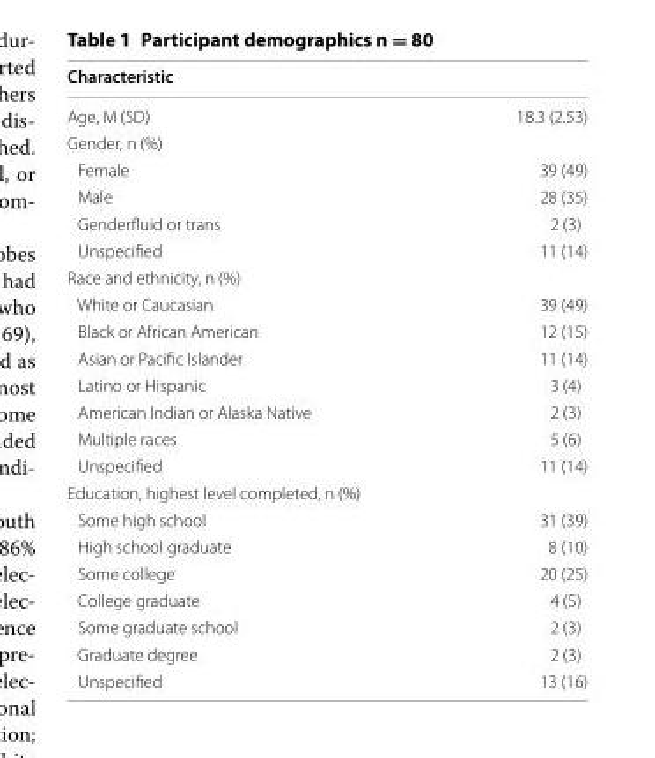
<table><thead><tr><td colspan="2">Characteristic</td></tr><tr><td>Age, M (SD)</td><td>18.3 (2.53)</td></tr></thead><tbody><tr><td colspan="2">Gender, n (%)</td></tr><tr><td>Female</td><td>39 (49)</td></tr><tr><td>Male</td><td>28 (35)</td></tr><tr><td>Genderfluid or trans</td><td>2 (3)</td></tr><tr><td>Unspecified</td><td>11 (14)</td></tr><tr><td colspan="2">Race and ethnicity, n (%)</td></tr><tr><td>White or Caucasian</td><td>39 (49)</td></tr><tr><td>Black or African American</td><td>12 (15)</td></tr><tr><td>Asian or Pacific Islander</td><td>11 (14)</td></tr><tr><td>Latino or Hispanic</td><td>3 (4)</td></tr><tr><td>American Indian or Alaska Native</td><td>2 (3)</td></tr><tr><td>Multiple races</td><td>5 (6)</td></tr><tr><td>Unspecified</td><td>11 (14)</td></tr><tr><td colspan="2">Education, highest level completed, n (%)</td></tr><tr><td>Some high school</td><td>31 (39)</td></tr><tr><td>High school graduate</td><td>8 (10)</td></tr><tr><td>Some college</td><td>20 (25)</td></tr><tr><td>College graduate</td><td>4 (5)</td></tr><tr><td>Some graduate school</td><td>2 (3)</td></tr><tr><td>Graduate degree</td><td>2 (3)</td></tr><tr><td>Unspecified</td><td>13 (16)</td></tr></tbody></table>